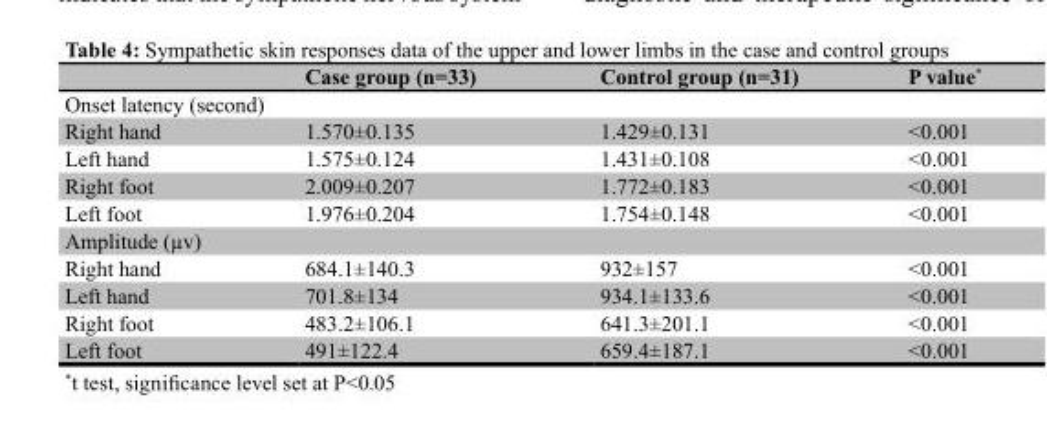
<table><thead><tr><td></td><td>Case group (n=33)</td><td>Control group (n=31)</td><td>P value*</td></tr></thead><tbody><tr><td colspan="4">Onset latency (second)</td></tr><tr><td>Right hand</td><td>1.570±0.135</td><td>1.429±0.131</td><td>&lt;0.001</td></tr><tr><td>Left hand</td><td>1.575±0.124</td><td>1.431±0.108</td><td>&lt;0.001</td></tr><tr><td>Right foot</td><td>2.009±0.207</td><td>1.772±0.183</td><td>&lt;0.001</td></tr><tr><td>Left foot</td><td>1.976±0.204</td><td>1.754±0.148</td><td>&lt;0.001</td></tr><tr><td colspan="4">Amplitude (µv)</td></tr><tr><td>Right hand</td><td>684.1±140.3</td><td>932±157</td><td>&lt;0.001</td></tr><tr><td>Left hand</td><td>701.8±134</td><td>934.1±133.6</td><td>&lt;0.001</td></tr><tr><td>Right foot</td><td>483.2±106.1</td><td>641.3±201.1</td><td>&lt;0.001</td></tr><tr><td>Left foot</td><td>491±122.4</td><td>659.4±187.1</td><td>&lt;0.001</td></tr></tbody></table>